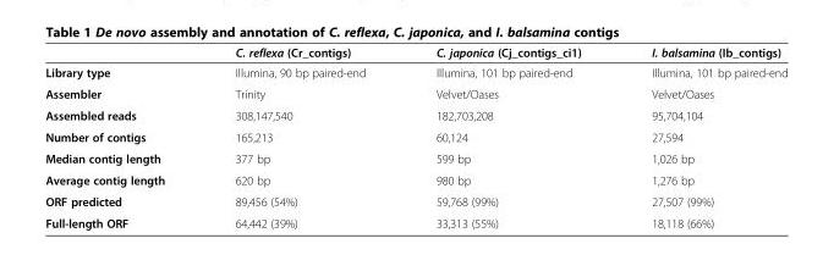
<table><thead><tr><td></td><td>C. reflexa (Cr_contigs)</td><td>C. japonica (Cj_contigs_ci1)</td><td>I. balsamina (Ib_contigs)</td></tr></thead><tbody><tr><td>Library type</td><td>Illumina, 90 bp paired-end</td><td>Illumina, 101 bp paired-end</td><td>Illumina, 101 bp paired-end</td></tr><tr><td>Assembler</td><td>Trinity</td><td>Velvet/Oases</td><td>Velvet/Oases</td></tr><tr><td>Assembled reads</td><td>308,147,540</td><td>182,703,208</td><td>95,704,104</td></tr><tr><td>Number of contigs</td><td>165,213</td><td>60,124</td><td>27,594</td></tr><tr><td>Median contig length</td><td>377 bp</td><td>599 bp</td><td>1,026 bp</td></tr><tr><td>Average contig length</td><td>620 bp</td><td>980 bp</td><td>1,276 bp</td></tr><tr><td>ORF predicted</td><td>89,456 (54%)</td><td>59,768 (99%)</td><td>27,507 (99%)</td></tr><tr><td>Full-length ORF</td><td>64,442 (39%)</td><td>33,313 (55%)</td><td>18,118 (66%)</td></tr></tbody></table>